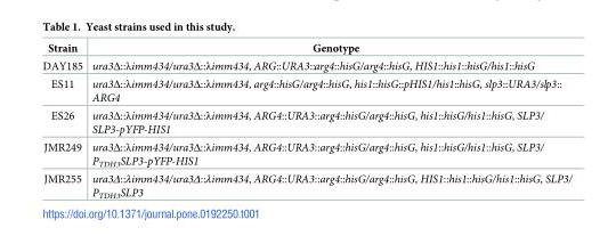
<table><thead><tr><td>Strain</td><td>Genotype</td></tr></thead><tbody><tr><td>DAY185</td><td>ura3Δ::λimm434/ura3Δ::λimm434, ARG::URA3::arg4::hisG/arg4::hisG, HIS1::his1::hisG/his1::hisG</td></tr><tr><td>ES11</td><td>ura3Δ::λimm434/ura3Δ::λimm434, arg4::hisG/arg4::hisG, his1::hisG::pHIS1/his1::hisG, slp3::URA3/slp3:: ARG4</td></tr><tr><td>ES26</td><td>ura3Δ::λimm434/ura3Δ::λimm434, ARG4::URA3::arg4::hisG/arg4::hisG, his1::hisG/his1::hisG, SLP3/ SLP3-pYFP-HIS1</td></tr><tr><td>JMR249</td><td>ura3Δ::λimm434/ura3Δ::λimm434, ARG4::URA3::arg4::hisG/arg4::hisG, his1::hisG/his1::hisG, SLP3/ P<sub>TDH3</sub>SLP3-pYFP-HIS1</td></tr><tr><td>JMR255</td><td>ura3Δ::λimm434/ura3Δ::λimm434, ARG4::URA3::arg4::hisG/arg4::hisG, HIS1::his1::hisG/his1::hisG, SLP3/ P<sub>TDH3</sub>SLP3</td></tr></tbody></table>